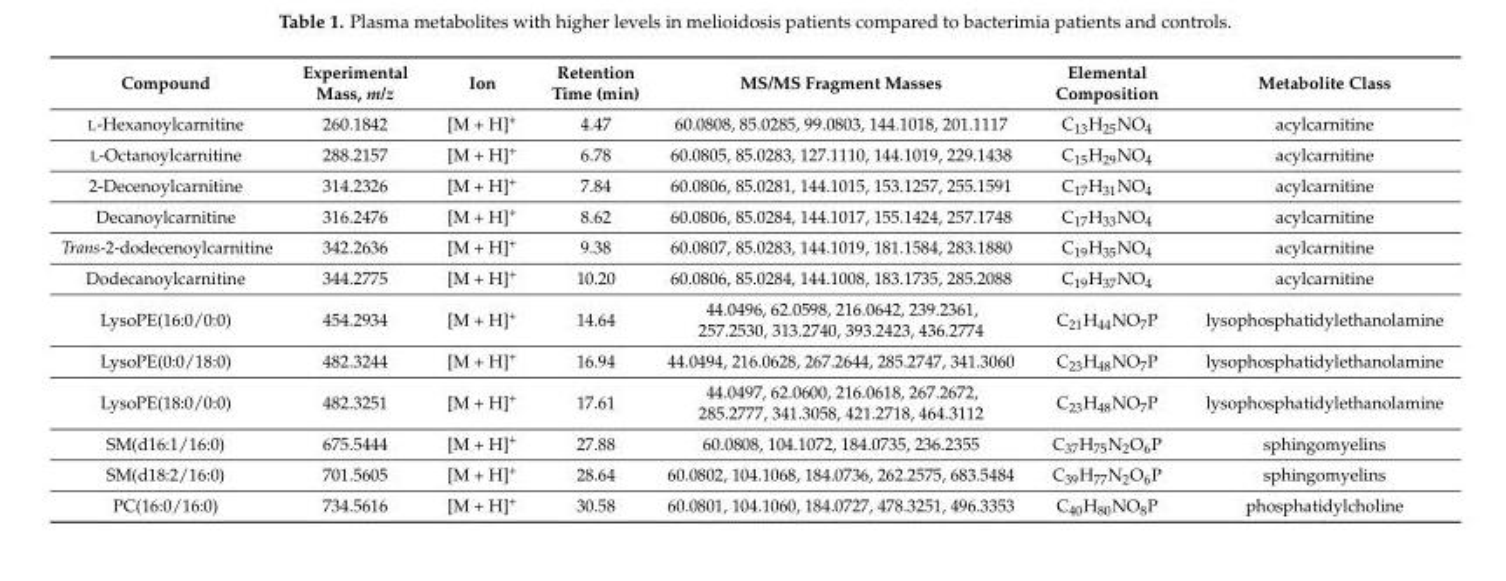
<table><thead><tr><td>Compound</td><td>Experimental Mass, m/z</td><td>Ion</td><td>Retention Time (min)</td><td>MS/MS Fragment Masses</td><td>Elemental Composition</td><td>Metabolite Class</td></tr></thead><tbody><tr><td>L-Hexanoylcarnitine</td><td>260.1842</td><td>[M + H]<sup>+</sup></td><td>4.47</td><td>60.0808, 85.0285, 99.0803, 144.1018, 201.1117</td><td>C<sub>13</sub>H<sub>25</sub>NO<sub>4</sub></td><td>acylcarnitine</td></tr><tr><td>L-Octanoylcarnitine</td><td>288.2157</td><td>[M + H]<sup>+</sup></td><td>6.78</td><td>60.0805, 85.0283, 127.1110, 144.1019, 229.1438</td><td>C<sub>15</sub>H<sub>29</sub>NO<sub>4</sub></td><td>acylcarnitine</td></tr><tr><td>2-Decenoylcarnitine</td><td>314.2326</td><td>[M + H]<sup>+</sup></td><td>7.84</td><td>60.0806, 85.0281, 144.1015, 153.1257, 255.1591</td><td>C<sub>17</sub>H<sub>31</sub>NO<sub>4</sub></td><td>acylcarnitine</td></tr><tr><td>Decanoylcarnitine</td><td>316.2476</td><td>[M + H]<sup>+</sup></td><td>8.62</td><td>60.0806, 85.0284, 144.1017, 155.1424, 257.1748</td><td>C<sub>17</sub>H<sub>33</sub>NO<sub>4</sub></td><td>acylcarnitine</td></tr><tr><td>Trans-2-dodecenoylcarnitine</td><td>342.2636</td><td>[M + H]<sup>+</sup></td><td>9.38</td><td>60.0807, 85.0283, 144.1019, 181.1584, 283.1880</td><td>C<sub>19</sub>H<sub>35</sub>NO<sub>4</sub></td><td>acylcarnitine</td></tr><tr><td>Dodecanoylcarnitine</td><td>344.2775</td><td>[M + H]<sup>+</sup></td><td>10.20</td><td>60.0806, 85.0284, 144.1008, 183.1735, 285.2088</td><td>C<sub>19</sub>H<sub>37</sub>NO<sub>4</sub></td><td>acylcarnitine</td></tr><tr><td>LysoPE(16:0/0:0)</td><td>454.2934</td><td>[M + H]<sup>+</sup></td><td>14.64</td><td>44.0496, 62.0598, 216.0642, 239.2361, 257.2530, 313.2740, 393.2423, 436.2774</td><td>C<sub>21</sub>H<sub>44</sub>NO<sub>7</sub>P</td><td>lysophosphatidylethanolamine</td></tr><tr><td>LysoPE(0:0/18:0)</td><td>482.3244</td><td>[M + H]<sup>+</sup></td><td>16.94</td><td>44.0494, 216.0628, 267.2644, 285.2747, 341.3060</td><td>C<sub>23</sub>H<sub>48</sub>NO<sub>7</sub>P</td><td>lysophosphatidylethanolamine</td></tr><tr><td>LysoPE(18:0/0:0)</td><td>482.3251</td><td>[M + H]<sup>+</sup></td><td>17.61</td><td>44.0497, 62.0600, 216.0618, 267.2672, 285.2777, 341.3058, 421.2718, 464.3112</td><td>C<sub>23</sub>H<sub>48</sub>NO<sub>7</sub>P</td><td>lysophosphatidylethanolamine</td></tr><tr><td>SM(d16:1/16:0)</td><td>675.5444</td><td>[M + H]<sup>+</sup></td><td>27.88</td><td>60.0808, 104.1072, 184.0735, 236.2355</td><td>C<sub>37</sub>H<sub>75</sub>N<sub>2</sub>O<sub>6</sub>P</td><td>sphingomyelins</td></tr><tr><td>SM(d18:2/16:0)</td><td>701.5605</td><td>[M + H]<sup>+</sup></td><td>28.64</td><td>60.0802, 104.1068, 184.0736, 262.2575, 683.5484</td><td>C<sub>39</sub>H<sub>77</sub>N<sub>2</sub>O<sub>6</sub>P</td><td>sphingomyelins</td></tr><tr><td>PC(16:0/16:0)</td><td>734.5616</td><td>[M + H]<sup>+</sup></td><td>30.58</td><td>60.0801, 104.1060, 184.0727, 478.3251, 496.3353</td><td>C<sub>40</sub>H<sub>80</sub>NO<sub>8</sub>P</td><td>phosphatidylcholine</td></tr></tbody></table>